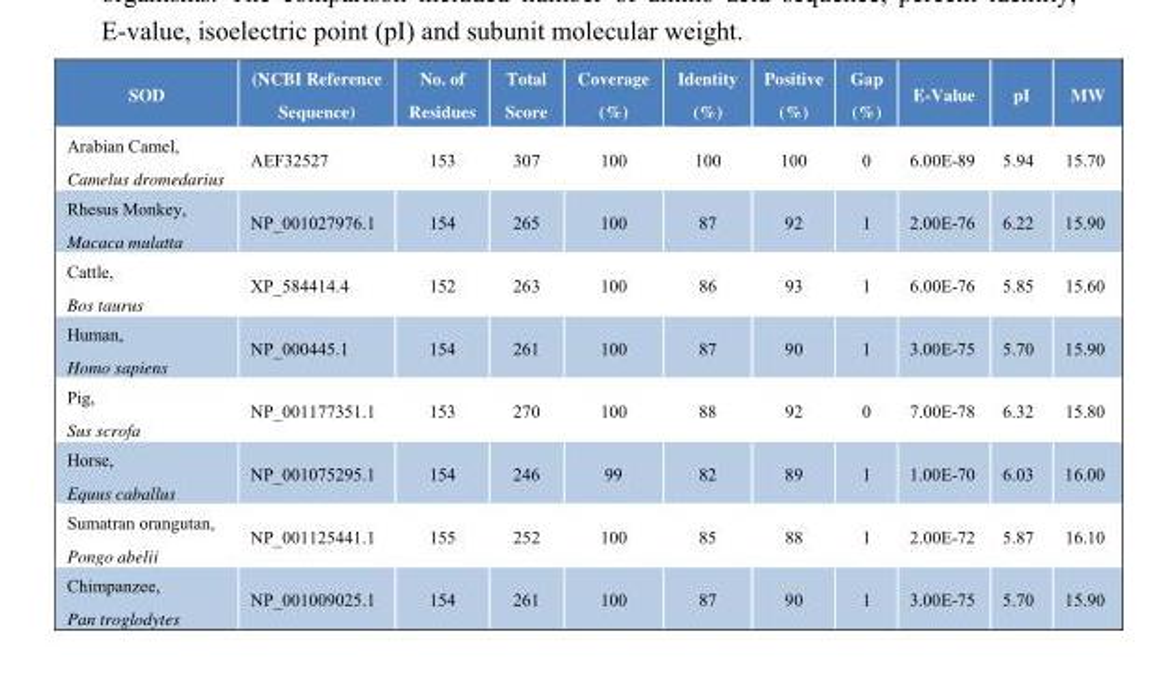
<table><thead><tr><td>SOD</td><td>(NCBI Reference Sequence)</td><td>No. of Residues</td><td>Total Score</td><td>Coverage (%)</td><td>Identity (%)</td><td>Positive (%)</td><td>Gap (%)</td><td>E-Value</td><td>pI</td><td>MW</td></tr></thead><tbody><tr><td>Arabian Camel, Camelus dromedarius</td><td>AEF32527</td><td>153</td><td>307</td><td>100</td><td>100</td><td>100</td><td>0</td><td>6.00E-89</td><td>5.94</td><td>15.70</td></tr><tr><td>Rhesus Monkey, Macaca mulatta</td><td>NP_001027976.1</td><td>154</td><td>265</td><td>100</td><td>87</td><td>92</td><td>1</td><td>2.00E-76</td><td>6.22</td><td>15.90</td></tr><tr><td>Cattle, Bos taurus</td><td>XP_584414.4</td><td>152</td><td>263</td><td>100</td><td>86</td><td>93</td><td>1</td><td>6.00E-76</td><td>5.85</td><td>15.60</td></tr><tr><td>Human, Homo sapiens</td><td>NP_000445.1</td><td>154</td><td>261</td><td>100</td><td>87</td><td>90</td><td>1</td><td>3.00E-75</td><td>5.70</td><td>15.90</td></tr><tr><td>Pig, Sus scrofa</td><td>NP_001177351.1</td><td>153</td><td>270</td><td>100</td><td>88</td><td>92</td><td>0</td><td>7.00E-78</td><td>6.32</td><td>15.80</td></tr><tr><td>Horse, Equus caballus</td><td>NP_001075295.1</td><td>154</td><td>246</td><td>99</td><td>82</td><td>89</td><td>1</td><td>1.00E-70</td><td>6.03</td><td>16.00</td></tr><tr><td>Sumatran orangutan, Pongo abelii</td><td>NP_001125441.1</td><td>155</td><td>252</td><td>100</td><td>85</td><td>88</td><td>1</td><td>2.00E-72</td><td>5.87</td><td>16.10</td></tr><tr><td>Chimpanzee, Pan troglodytes</td><td>NP_001009025.1</td><td>154</td><td>261</td><td>100</td><td>87</td><td>90</td><td>1</td><td>3.00E-75</td><td>5.70</td><td>15.90</td></tr></tbody></table>